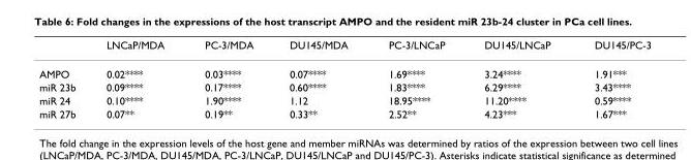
<table><thead><tr><td></td><td>LNCaP/MDA</td><td>PC-3/MDA</td><td>DU145/MDA</td><td>PC-3/LNCaP</td><td>DU145/LNCaP</td><td>DU145/PC-3</td></tr></thead><tbody><tr><td>AMPO</td><td>0.02****</td><td>0.03****</td><td>0.07****</td><td>1.69****</td><td>3.24****</td><td>1.91***</td></tr><tr><td>miR 23b</td><td>0.09****</td><td>0.17****</td><td>0.60****</td><td>1.83****</td><td>6.29****</td><td>3.43****</td></tr><tr><td>miR 24</td><td>0.10****</td><td>1.90****</td><td>1.12</td><td>18.95****</td><td>11.20****</td><td>0.59****</td></tr><tr><td>miR 27b</td><td>0.07**</td><td>0.19**</td><td>0.33**</td><td>2.52**</td><td>4.23***</td><td>1.67***</td></tr></tbody></table>